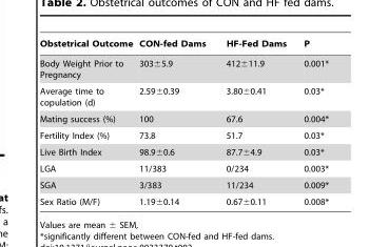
<table><thead><tr><td>Obstetrical Outcome</td><td>CON-fed Dams</td><td>HF-Fed Dams</td><td>P</td></tr></thead><tbody><tr><td>Body Weight Prior to Pregnancy</td><td>303±5.9</td><td>412±11.9</td><td>0.001*</td></tr><tr><td>Average time to copulation (d)</td><td>2.59±0.39</td><td>3.80±0.41</td><td>0.03*</td></tr><tr><td>Mating success (%)</td><td>100</td><td>67.6</td><td>0.004*</td></tr><tr><td>Fertility Index (%)</td><td>73.8</td><td>51.7</td><td>0.03*</td></tr><tr><td>Live Birth Index</td><td>98.9±0.6</td><td>87.7±4.9</td><td>0.03*</td></tr><tr><td>LGA</td><td>11/383</td><td>0/234</td><td>0.003*</td></tr><tr><td>SGA</td><td>3/383</td><td>11/234</td><td>0.009*</td></tr><tr><td>Sex Ratio (M/F)</td><td>1.19±0.14</td><td>0.67±0.11</td><td>0.008*</td></tr></tbody></table>